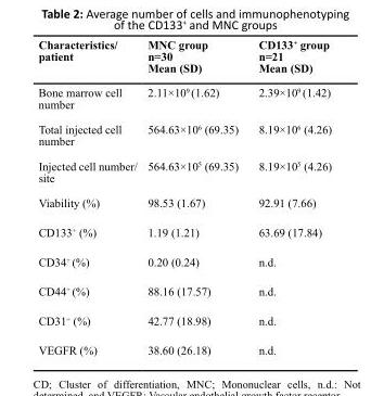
<table><thead><tr><td>Characteristics/ patient</td><td>MNC group n=30 Mean (SD)</td><td>CD133<sup>+</sup> group n=21 Mean (SD)</td></tr></thead><tbody><tr><td>Bone marrow cell number</td><td>2.11×10<sup>9</sup> (1.62)</td><td>2.39×10<sup>9</sup> (1.42)</td></tr><tr><td>Total injected cell number</td><td>564.63×10<sup>6</sup> (69.35)</td><td>8.19×10<sup>6</sup> (4.26)</td></tr><tr><td>Injected cell number/ site</td><td>564.63×10<sup>5</sup> (69.35)</td><td>8.19×10<sup>5</sup> (4.26)</td></tr><tr><td>Viability (%)</td><td>98.53 (1.67)</td><td>92.91 (7.66)</td></tr><tr><td>CD133<sup>+</sup> (%)</td><td>1.19 (1.21)</td><td>63.69 (17.84)</td></tr><tr><td>CD34<sup>+</sup> (%)</td><td>0.20 (0.24)</td><td>n.d.</td></tr><tr><td>CD44<sup>+</sup> (%)</td><td>88.16 (17.57)</td><td>n.d.</td></tr><tr><td>CD31<sup>+</sup> (%)</td><td>42.77 (18.98)</td><td>n.d.</td></tr><tr><td>VEGFR (%)</td><td>38.60 (26.18)</td><td>n.d.</td></tr></tbody></table>